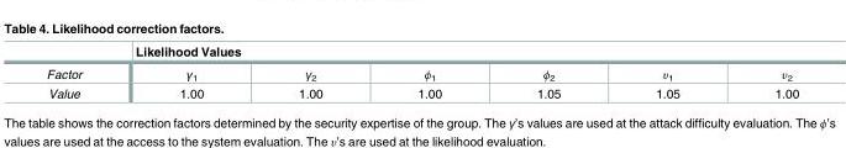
<table><thead><tr><td rowspan="2">Factor</td><td colspan="6">Likelihood Values</td></tr><tr><td>γ<sub>1</sub></td><td>γ<sub>2</sub></td><td>ϕ<sub>1</sub></td><td>ϕ<sub>2</sub></td><td>υ<sub>1</sub></td><td>υ<sub>2</sub></td></tr></thead><tbody><tr><td>Value</td><td>1.00</td><td>1.00</td><td>1.00</td><td>1.05</td><td>1.05</td><td>1.00</td></tr></tbody></table>